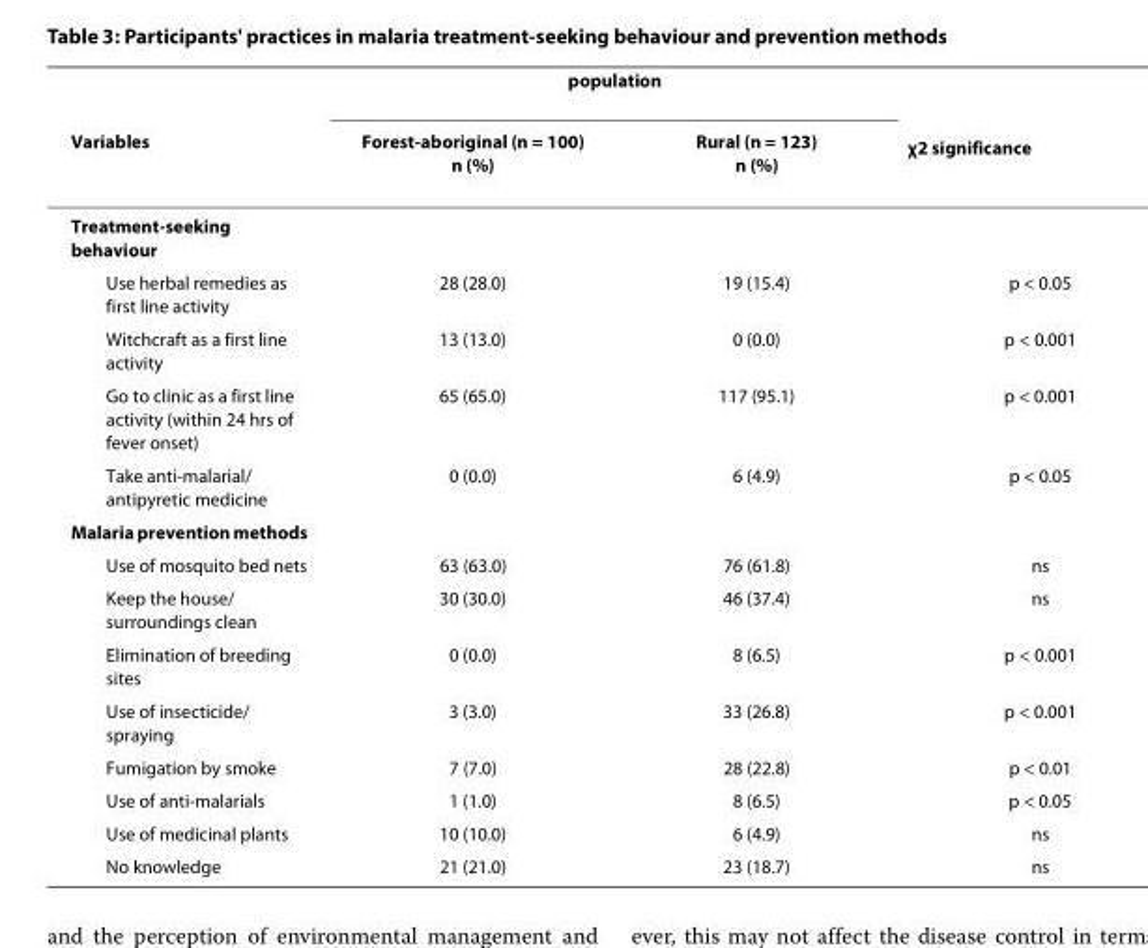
<table><thead><tr><td rowspan="2">Variables</td><td colspan="2">population</td><td rowspan="2">χ<sup>2</sup> significance</td></tr><tr><td>Forest-aboriginal (n = 100) n (%)</td><td>Rural (n = 123) n (%)</td></tr></thead><tbody><tr><td colspan="4">Treatment-seeking behaviour</td></tr><tr><td>Use herbal remedies as first line activity</td><td>28 (28.0)</td><td>19 (15.4)</td><td>p &lt; 0.05</td></tr><tr><td>Witchcraft as a first line activity</td><td>13 (13.0)</td><td>0 (0.0)</td><td>p &lt; 0.001</td></tr><tr><td>Go to clinic as a first line activity (within 24 hrs of fever onset)</td><td>65 (65.0)</td><td>117 (95.1)</td><td>p &lt; 0.001</td></tr><tr><td>Take anti-malarial/ antipyretic medicine</td><td>0 (0.0)</td><td>6 (4.9)</td><td>p &lt; 0.05</td></tr><tr><td colspan="4">Malaria prevention methods</td></tr><tr><td>Use of mosquito bed nets</td><td>63 (63.0)</td><td>76 (61.8)</td><td>ns</td></tr><tr><td>Keep the house/ surroundings clean</td><td>30 (30.0)</td><td>46 (37.4)</td><td>ns</td></tr><tr><td>Elimination of breeding sites</td><td>0 (0.0)</td><td>8 (6.5)</td><td>p &lt; 0.001</td></tr><tr><td>Use of insecticide/ spraying</td><td>3 (3.0)</td><td>33 (26.8)</td><td>p &lt; 0.001</td></tr><tr><td>Fumigation by smoke</td><td>7 (7.0)</td><td>28 (22.8)</td><td>p &lt; 0.01</td></tr><tr><td>Use of anti-malarials</td><td>1 (1.0)</td><td>8 (6.5)</td><td>p &lt; 0.05</td></tr><tr><td>Use of medicinal plants</td><td>10 (10.0)</td><td>6 (4.9)</td><td>ns</td></tr><tr><td>No knowledge</td><td>21 (21.0)</td><td>23 (18.7)</td><td>ns</td></tr></tbody></table>